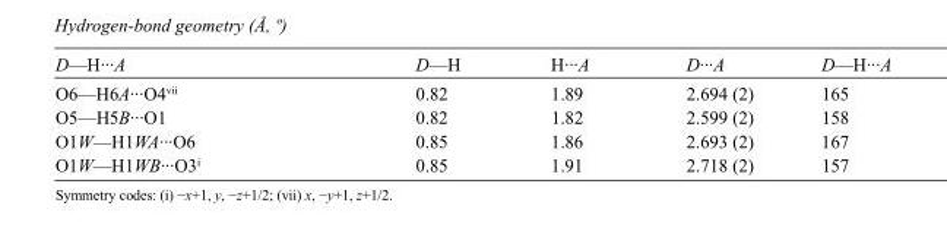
<table><tbody><tr><td>D—H···A</td><td>D—H</td><td>H···A</td><td>D···A</td><td>D—H···A</td></tr><tr><td>O6—H6A···O4<sup>vii</sup></td><td>0.82</td><td>1.89</td><td>2.694 (2)</td><td>165</td></tr><tr><td>O5—H5B···O1</td><td>0.82</td><td>1.82</td><td>2.599 (2)</td><td>158</td></tr><tr><td>O1W—H1WA···O6</td><td>0.85</td><td>1.86</td><td>2.693 (2)</td><td>167</td></tr><tr><td>O1W—H1WB···O3<sup>i</sup></td><td>0.85</td><td>1.91</td><td>2.718 (2)</td><td>157</td></tr></tbody></table>